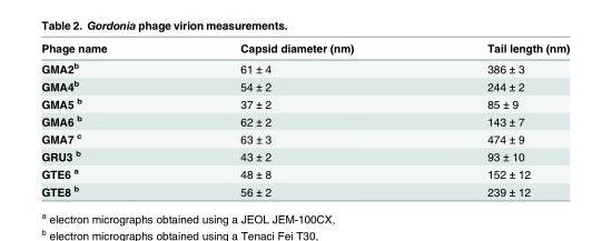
<table><thead><tr><td>Phage name</td><td>Capsid diameter (nm)</td><td>Tail length (nm)</td></tr></thead><tbody><tr><td>GMA2<sup>b</sup></td><td>61 ± 4</td><td>386 ± 3</td></tr><tr><td>GMA4<sup>b</sup></td><td>54 ± 2</td><td>244 ± 2</td></tr><tr><td>GMA5 <sup>b</sup></td><td>37 ± 2</td><td>85 ± 9</td></tr><tr><td>GMA6 <sup>b</sup></td><td>62 ± 2</td><td>143 ± 7</td></tr><tr><td>GMA7 <sup>c</sup></td><td>63 ± 3</td><td>474 ± 9</td></tr><tr><td>GRU3 <sup>b</sup></td><td>43 ± 2</td><td>93 ± 10</td></tr><tr><td>GTE6 <sup>a</sup></td><td>48 ± 8</td><td>152 ± 12</td></tr><tr><td>GTE8 <sup>b</sup></td><td>56 ± 2</td><td>239 ± 12</td></tr></tbody></table>